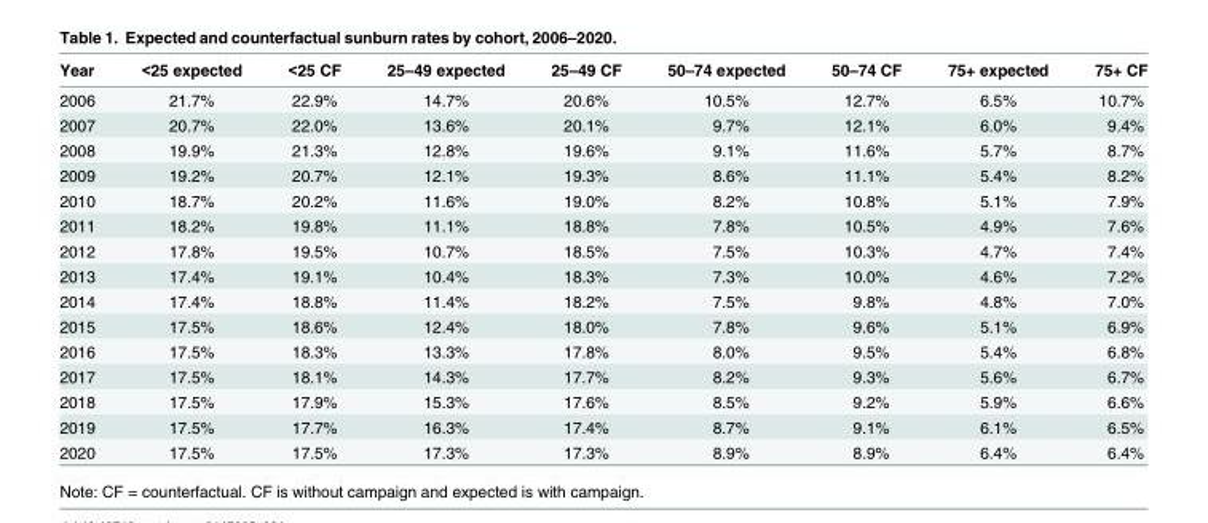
<table><thead><tr><td>Year</td><td>&lt;25 expected</td><td>&lt;25 CF</td><td>25–49 expected</td><td>25–49 CF</td><td>50–74 expected</td><td>50–74 CF</td><td>75+ expected</td><td>75+ CF</td></tr></thead><tbody><tr><td>2006</td><td>21.7%</td><td>22.9%</td><td>14.7%</td><td>20.6%</td><td>10.5%</td><td>12.7%</td><td>6.5%</td><td>10.7%</td></tr><tr><td>2007</td><td>20.7%</td><td>22.0%</td><td>13.6%</td><td>20.1%</td><td>9.7%</td><td>12.1%</td><td>6.0%</td><td>9.4%</td></tr><tr><td>2008</td><td>19.9%</td><td>21.3%</td><td>12.8%</td><td>19.6%</td><td>9.1%</td><td>11.6%</td><td>5.7%</td><td>8.7%</td></tr><tr><td>2009</td><td>19.2%</td><td>20.7%</td><td>12.1%</td><td>19.3%</td><td>8.6%</td><td>11.1%</td><td>5.4%</td><td>8.2%</td></tr><tr><td>2010</td><td>18.7%</td><td>20.2%</td><td>11.6%</td><td>19.0%</td><td>8.2%</td><td>10.8%</td><td>5.1%</td><td>7.9%</td></tr><tr><td>2011</td><td>18.2%</td><td>19.8%</td><td>11.1%</td><td>18.8%</td><td>7.8%</td><td>10.5%</td><td>4.9%</td><td>7.6%</td></tr><tr><td>2012</td><td>17.8%</td><td>19.5%</td><td>10.7%</td><td>18.5%</td><td>7.5%</td><td>10.3%</td><td>4.7%</td><td>7.4%</td></tr><tr><td>2013</td><td>17.4%</td><td>19.1%</td><td>10.4%</td><td>18.3%</td><td>7.3%</td><td>10.0%</td><td>4.6%</td><td>7.2%</td></tr><tr><td>2014</td><td>17.4%</td><td>18.8%</td><td>11.4%</td><td>18.2%</td><td>7.5%</td><td>9.8%</td><td>4.8%</td><td>7.0%</td></tr><tr><td>2015</td><td>17.5%</td><td>18.6%</td><td>12.4%</td><td>18.0%</td><td>7.8%</td><td>9.6%</td><td>5.1%</td><td>6.9%</td></tr><tr><td>2016</td><td>17.5%</td><td>18.3%</td><td>13.3%</td><td>17.8%</td><td>8.0%</td><td>9.5%</td><td>5.4%</td><td>6.8%</td></tr><tr><td>2017</td><td>17.5%</td><td>18.1%</td><td>14.3%</td><td>17.7%</td><td>8.2%</td><td>9.3%</td><td>5.6%</td><td>6.7%</td></tr><tr><td>2018</td><td>17.5%</td><td>17.9%</td><td>15.3%</td><td>17.6%</td><td>8.5%</td><td>9.2%</td><td>5.9%</td><td>6.6%</td></tr><tr><td>2019</td><td>17.5%</td><td>17.7%</td><td>16.3%</td><td>17.4%</td><td>8.7%</td><td>9.1%</td><td>6.1%</td><td>6.5%</td></tr><tr><td>2020</td><td>17.5%</td><td>17.5%</td><td>17.3%</td><td>17.3%</td><td>8.9%</td><td>8.9%</td><td>6.4%</td><td>6.4%</td></tr></tbody></table>